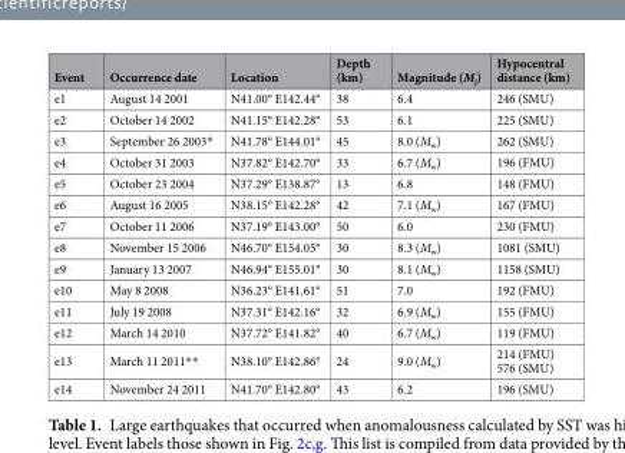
<table><thead><tr><td>Event</td><td>Occurrence date</td><td>Location</td><td>Depth (km)</td><td>Magnitude (M<sub>j</sub>)</td><td>Hypocentral distance (km)</td></tr></thead><tbody><tr><td>e1</td><td>August 14 2001</td><td>N41.00° E142.44°</td><td>38</td><td>6.4</td><td>246 (SMU)</td></tr><tr><td>e2</td><td>October 14 2002</td><td>N41.15° E142.28°</td><td>53</td><td>6.1</td><td>225 (SMU)</td></tr><tr><td>e3</td><td>September 26 2003*</td><td>N41.78° E144.01°</td><td>45</td><td>8.0 (M<sub>w</sub>)</td><td>262 (SMU)</td></tr><tr><td>e4</td><td>October 31 2003</td><td>N37.82° E142.70°</td><td>33</td><td>6.7 (M<sub>w</sub>)</td><td>196 (FMU)</td></tr><tr><td>e5</td><td>October 23 2004</td><td>N37.29° E138.87°</td><td>13</td><td>6.8</td><td>148 (FMU)</td></tr><tr><td>e6</td><td>August 16 2005</td><td>N38.15° E142.28°</td><td>42</td><td>7.1 (M<sub>w</sub>)</td><td>167 (FMU)</td></tr><tr><td>e7</td><td>October 11 2006</td><td>N37.19° E143.00°</td><td>50</td><td>6.0</td><td>230 (FMU)</td></tr><tr><td>e8</td><td>November 15 2006</td><td>N46.70° E154.05°</td><td>30</td><td>8.3 (M<sub>w</sub>)</td><td>1081 (SMU)</td></tr><tr><td>e9</td><td>January 13 2007</td><td>N46.94° E155.01°</td><td>30</td><td>8.1 (M<sub>w</sub>)</td><td>1158 (SMU)</td></tr><tr><td>e10</td><td>May 8 2008</td><td>N36.23° E141.61°</td><td>51</td><td>7.0</td><td>192 (FMU)</td></tr><tr><td>e11</td><td>July 19 2008</td><td>N37.31° E142.16°</td><td>32</td><td>6.9 (M<sub>w</sub>)</td><td>155 (FMU)</td></tr><tr><td>e12</td><td>March 14 2010</td><td>N37.72° E141.82°</td><td>40</td><td>6.7 (M<sub>w</sub>)</td><td>119 (FMU)</td></tr><tr><td>e13</td><td>March 11 2011**</td><td>N38.10° E142.86°</td><td>24</td><td>9.0 (M<sub>w</sub>)</td><td>214 (FMU) 576 (SMU)</td></tr><tr><td>e14</td><td>November 24 2011</td><td>N41.70° E142.80°</td><td>43</td><td>6.2</td><td>196 (SMU)</td></tr></tbody></table>